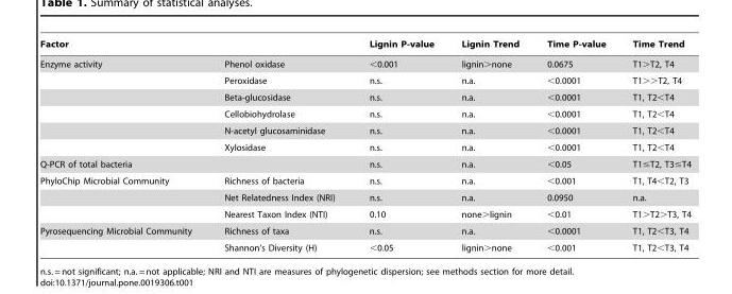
<table><thead><tr><td colspan="2">Factor</td><td rowspan="2">Lignin P-value &lt;0.001</td><td rowspan="2">Lignin Trend lignin&gt;none</td><td rowspan="2">Time P-value 0.0675</td><td rowspan="2">Time Trend T1&gt;T2, T4</td></tr><tr><td>Enzyme activity</td><td>Phenol oxidase</td></tr></thead><tbody><tr><td></td><td>Peroxidase</td><td>n.s.</td><td>n.a.</td><td>&lt;0.0001</td><td>T1&gt;&gt;T2, T4</td></tr><tr><td></td><td>Beta-glucosidase</td><td>n.s.</td><td>n.a.</td><td>&lt;0.0001</td><td>T1, T2&lt;T4</td></tr><tr><td></td><td>Cellobiohydrolase</td><td>n.s.</td><td>n.a.</td><td>&lt;0.0001</td><td>T1, T2&lt;T4</td></tr><tr><td></td><td>N-acetyl glucosaminidase</td><td>n.s.</td><td>n.a.</td><td>&lt;0.0001</td><td>T1, T2&lt;T4</td></tr><tr><td></td><td>Xylosidase</td><td>n.s.</td><td>n.a.</td><td>&lt;0.0001</td><td>T1, T2&lt;T4</td></tr><tr><td colspan="2">Q-PCR of total bacteria</td><td>n.s.</td><td>n.a.</td><td>&lt;0.05</td><td>T1≤T2, T3≤T4</td></tr><tr><td rowspan="3">PhyloChip Microbial Community</td><td>Richness of bacteria</td><td>n.s.</td><td>n.a.</td><td>&lt;0.001</td><td>T1, T4&lt;T2, T3</td></tr><tr><td>Net Relatedness Index (NRI)</td><td>n.s.</td><td>n.a.</td><td>0.0950</td><td>n.a.</td></tr><tr><td>Nearest Taxon Index (NTI)</td><td>0.10</td><td>none&gt;lignin</td><td>&lt;0.01</td><td>T1&gt;T2&gt;T3, T4</td></tr><tr><td rowspan="2">Pyrosequencing Microbial Community</td><td>Richness of taxa</td><td>n.s.</td><td>n.a.</td><td>&lt;0.0001</td><td>T1, T2&lt;T3, T4</td></tr><tr><td>Shannon’s Diversity (H)</td><td>&lt;0.05</td><td>lignin&gt;none</td><td>&lt;0.001</td><td>T1, T2&lt;T3, T4</td></tr></tbody></table>